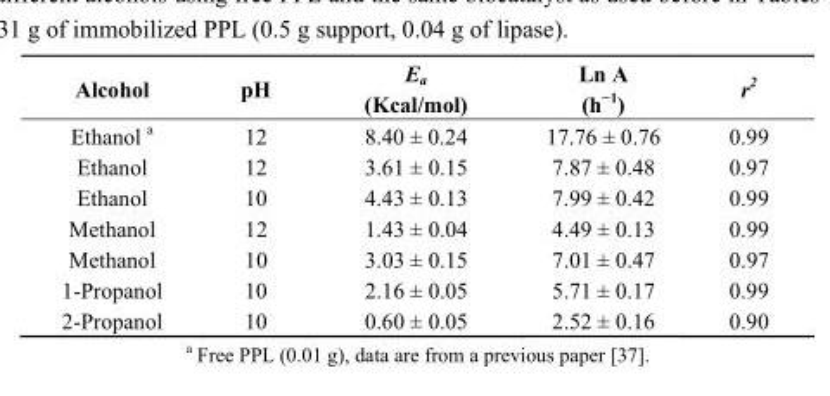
<table><thead><tr><td>Alcohol</td><td>pH</td><td>E<sub>a</sub> (Kcal/mol)</td><td>Ln A (h<sup>−1</sup>)</td><td>r<sup>2</sup></td></tr></thead><tbody><tr><td>Ethanol a</td><td>12</td><td>8.40 ± 0.24</td><td>17.76 ± 0.76</td><td>0.99</td></tr><tr><td>Ethanol</td><td>12</td><td>3.61 ± 0.15</td><td>7.87 ± 0.48</td><td>0.97</td></tr><tr><td>Ethanol</td><td>10</td><td>4.43 ± 0.13</td><td>7.99 ± 0.42</td><td>0.99</td></tr><tr><td>Methanol</td><td>12</td><td>1.43 ± 0.04</td><td>4.49 ± 0.13</td><td>0.99</td></tr><tr><td>Methanol</td><td>10</td><td>3.03 ± 0.15</td><td>7.01 ± 0.47</td><td>0.97</td></tr><tr><td>1-Propanol</td><td>10</td><td>2.16 ± 0.05</td><td>5.71 ± 0.17</td><td>0.99</td></tr><tr><td>2-Propanol</td><td>10</td><td>0.60 ± 0.05</td><td>2.52 ± 0.16</td><td>0.90</td></tr></tbody></table>